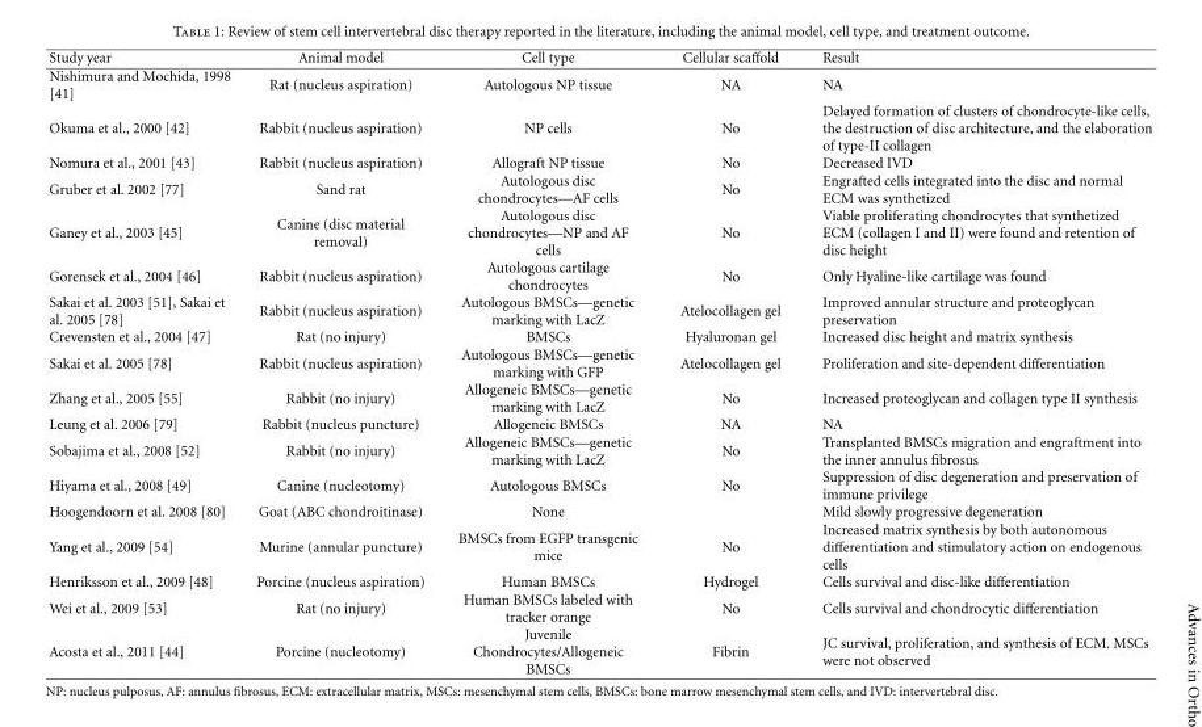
<table><thead><tr><td>Study year</td><td>Animal model</td><td>Cell type</td><td>Cellular scaffold</td><td>Result</td></tr></thead><tbody><tr><td>Nishimura and Mochida, 1998 [41]</td><td>Rat (nucleus aspiration)</td><td>Autologous NP tissue</td><td>NA</td><td>NA</td></tr><tr><td>Okuma et al., 2000 [42]</td><td>Rabbit (nucleus aspiration)</td><td>NP cells</td><td>No</td><td>Delayed formation of clusters of chondrocyte-like cells, the destruction of disc architecture, and the elaboration of type-II collagen</td></tr><tr><td>Nomura et al., 2001 [43]</td><td>Rabbit (nucleus aspiration)</td><td>Allograft NP tissue</td><td>No</td><td>Decreased IVD</td></tr><tr><td>Gruber et al. 2002 [77]</td><td>Sand rat</td><td>Autologous disc chondrocytes—AF cells</td><td>No</td><td>Engrafted cells integrated into the disc and normal ECM was synthetized</td></tr><tr><td>Ganey et al., 2003 [45]</td><td>Canine (disc material removal)</td><td>Autologous disc chondrocytes—NP and AF cells</td><td>No</td><td>Viable proliferating chondrocytes that synthetized ECM (collagen I and II) were found and retention of disc height</td></tr><tr><td>Gorensek et al., 2004 [46]</td><td>Rabbit (nucleus aspiration)</td><td>Autologous cartilage chondrocytes</td><td>No</td><td>Only Hyaline-like cartilage was found</td></tr><tr><td>Sakai et al. 2003 [51], Sakai et al. 2005 [78]</td><td>Rabbit (nucleus aspiration)</td><td>Autologous BMSCs—genetic marking with LacZ</td><td>Atelocollagen gel</td><td>Improved annular structure and proteoglycan preservation</td></tr><tr><td>Crevensten et al., 2004 [47]</td><td>Rat (no injury)</td><td>BMSCs</td><td>Hyaluronan gel</td><td>Increased disc height and matrix synthesis</td></tr><tr><td>Sakai et al. 2005 [78]</td><td>Rabbit (nucleus aspiration)</td><td>Autologous BMSCs—genetic marking with GFP</td><td>Atelocollagen gel</td><td>Proliferation and site-dependent differentiation</td></tr><tr><td>Zhang et al., 2005 [55]</td><td>Rabbit (no injury)</td><td>Allogeneic BMSCs—genetic marking with LacZ</td><td>No</td><td>Increased proteoglycan and collagen type II synthesis</td></tr><tr><td>Leung et al. 2006 [79]</td><td>Rabbit (nucleus puncture)</td><td>Allogeneic BMSCs</td><td>NA</td><td>NA</td></tr><tr><td>Sobajima et al., 2008 [52]</td><td>Rabbit (no injury)</td><td>Allogeneic BMSCs—genetic marking with LacZ</td><td>No</td><td>Transplanted BMSCs migration and engraftment into the inner annulus fibrosus</td></tr><tr><td>Hiyama et al., 2008 [49]</td><td>Canine (nucleotomy)</td><td>Autologous BMSCs</td><td>No</td><td>Suppression of disc degeneration and preservation of immune privilege</td></tr><tr><td>Hoogendoorn et al. 2008 [80]</td><td>Goat (ABC chondroitinase)</td><td>None</td><td></td><td>Mild slowly progressive degeneration</td></tr><tr><td>Yang et al., 2009 [54]</td><td>Murine (annular puncture)</td><td>BMSCs from EGFP transgenic mice</td><td>No</td><td>Increased matrix synthesis by both autonomous differentiation and stimulatory action on endogenous cells</td></tr><tr><td>Henriksson et al., 2009 [48]</td><td>Porcine (nucleus aspiration)</td><td>Human BMSCs</td><td>Hydrogel</td><td>Cells survival and disc-like differentiation</td></tr><tr><td>Wei et al., 2009 [53]</td><td>Rat (no injury)</td><td>Human BMSCs labeled with tracker orange</td><td>No</td><td>Cells survival and chondrocytic differentiation</td></tr><tr><td>Acosta et al., 2011 [44]</td><td>Porcine (nucleotomy)</td><td>Juvenile Chondrocytes/Allogeneic BMSCs</td><td>Fibrin</td><td>JC survival, proliferation, and synthesis of ECM. MSCs were not observed</td></tr></tbody></table>